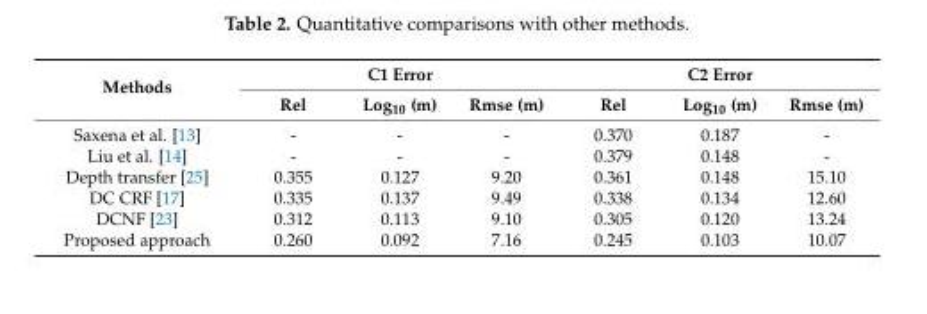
<table><thead><tr><td rowspan="2">Methods</td><td colspan="3">C1 Error</td><td colspan="3">C2 Error</td></tr><tr><td>Rel</td><td>Log<sub>10</sub> (m)</td><td>Rmse (m)</td><td>Rel</td><td>Log<sub>10</sub> (m)</td><td>Rmse (m)</td></tr></thead><tbody><tr><td>Saxena et al. [13]</td><td>-</td><td>-</td><td>-</td><td>0.370</td><td>0.187</td><td>-</td></tr><tr><td>Liu et al. [14]</td><td>-</td><td>-</td><td>-</td><td>0.379</td><td>0.148</td><td>-</td></tr><tr><td>Depth transfer [25]</td><td>0.355</td><td>0.127</td><td>9.20</td><td>0.361</td><td>0.148</td><td>15.10</td></tr><tr><td>DC CRF [17]</td><td>0.335</td><td>0.137</td><td>9.49</td><td>0.338</td><td>0.134</td><td>12.60</td></tr><tr><td>DCNF [23]</td><td>0.312</td><td>0.113</td><td>9.10</td><td>0.305</td><td>0.120</td><td>13.24</td></tr><tr><td>Proposed approach</td><td>0.260</td><td>0.092</td><td>7.16</td><td>0.245</td><td>0.103</td><td>10.07</td></tr></tbody></table>